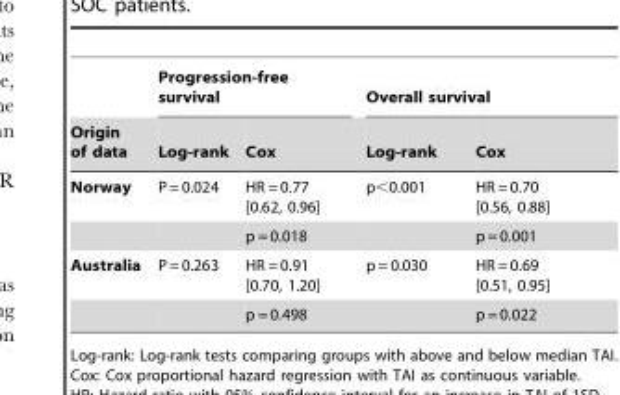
<table><thead><tr><td rowspan="2">Origin of data</td><td colspan="2">Progression-free survival</td><td colspan="2">Overall survival</td></tr><tr><td>Log-rank</td><td>Cox</td><td>Log-rank</td><td>Cox</td></tr></thead><tbody><tr><td rowspan="2">Norway</td><td>P = 0.024</td><td>HR = 0.77 [0.62, 0.96]</td><td>p&lt;0.001</td><td>HR = 0.70 [0.56, 0.88]</td></tr><tr><td></td><td>p = 0.018</td><td></td><td>p = 0.001</td></tr><tr><td rowspan="2">Australia</td><td>P = 0.263</td><td>HR = 0.91 [0.70, 1.20]</td><td>p = 0.030</td><td>HR = 0.69 [0.51, 0.95]</td></tr><tr><td></td><td>p = 0.498</td><td></td><td>p = 0.022</td></tr></tbody></table>